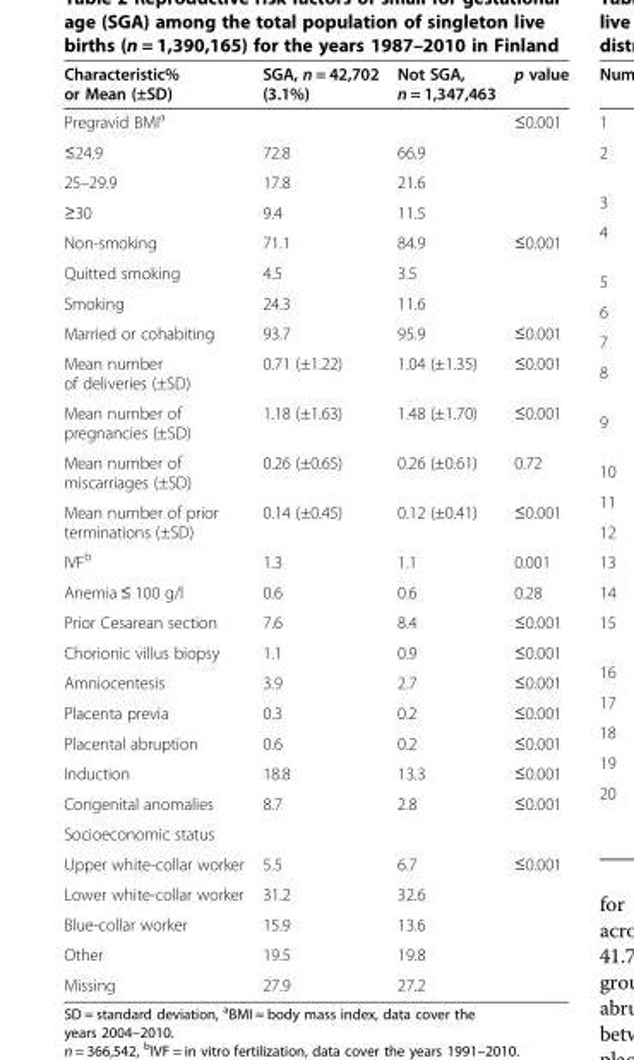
<table><thead><tr><td>Characteristic% or Mean (±SD)</td><td>SGA, n = 42,702 (3.1%)</td><td>Not SGA, n = 1,347,463</td><td>p value</td></tr></thead><tbody><tr><td colspan="3">Pregravid BMI<sup>a</sup></td><td rowspan="4">≤0.001</td></tr><tr><td>≤24.9</td><td>72.8</td><td>66.9</td></tr><tr><td>25–29.9</td><td>17.8</td><td>21.6</td></tr><tr><td>≥30</td><td>9.4</td><td>11.5</td></tr><tr><td>Non-smoking</td><td>71.1</td><td>84.9</td><td rowspan="3">≤0.001</td></tr><tr><td>Quitted smoking</td><td>4.5</td><td>3.5</td></tr><tr><td>Smoking</td><td>24.3</td><td>11.6</td></tr><tr><td>Married or cohabiting</td><td>93.7</td><td>95.9</td><td>≤0.001</td></tr><tr><td>Mean number of deliveries (±SD)</td><td>0.71 (±1.22)</td><td>1.04 (±1.35)</td><td>≤0.001</td></tr><tr><td>Mean number of pregnancies (±SD)</td><td>1.18 (±1.63)</td><td>1.48 (±1.70)</td><td>≤0.001</td></tr><tr><td>Mean number of miscarriages (±SD)</td><td>0.26 (±0.65)</td><td>0.26 (±0.61)</td><td>0.72</td></tr><tr><td>Mean number of prior terminations (±SD)</td><td>0.14 (±0.45)</td><td>0.12 (±0.41)</td><td>≤0.001</td></tr><tr><td>IVF<sup>b</sup></td><td>1.3</td><td>1.1</td><td>0.001</td></tr><tr><td>Anemia ≤ 100 g/l</td><td>0.6</td><td>0.6</td><td>0.28</td></tr><tr><td>Prior Cesarean section</td><td>7.6</td><td>8.4</td><td>≤0.001</td></tr><tr><td>Chorionic villus biopsy</td><td>1.1</td><td>0.9</td><td>≤0.001</td></tr><tr><td>Amniocentesis</td><td>3.9</td><td>2.7</td><td>≤0.001</td></tr><tr><td>Placenta previa</td><td>0.3</td><td>0.2</td><td>≤0.001</td></tr><tr><td>Placental abruption</td><td>0.6</td><td>0.2</td><td>≤0.001</td></tr><tr><td>Induction</td><td>18.8</td><td>13.3</td><td>≤0.001</td></tr><tr><td>Congenital anomalies</td><td>8.7</td><td>2.8</td><td>≤0.001</td></tr><tr><td colspan="4">Socioeconomic status</td></tr><tr><td>Upper white-collar worker</td><td>5.5</td><td>6.7</td><td rowspan="4">≤0.001</td></tr><tr><td>Lower white-collar worker</td><td>31.2</td><td>32.6</td></tr><tr><td>Blue-collar worker</td><td>15.9</td><td>13.6</td></tr><tr><td>Other</td><td>19.5</td><td>19.8</td></tr><tr><td>Missing</td><td>27.9</td><td>27.2</td><td></td></tr></tbody></table>